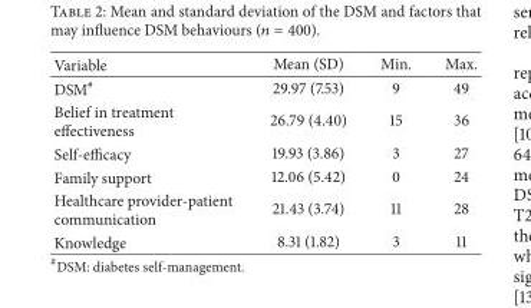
<table><thead><tr><td>Variable</td><td>Mean (SD)</td><td>Min.</td><td>Max.</td></tr></thead><tbody><tr><td>DSM<sup>#</sup></td><td>29.97 (7.53)</td><td>9</td><td>49</td></tr><tr><td>Belief in treatment effectiveness</td><td>26.79 (4.40)</td><td>15</td><td>36</td></tr><tr><td>Self-efficacy</td><td>19.93 (3.86)</td><td>3</td><td>27</td></tr><tr><td>Family support</td><td>12.06 (5.42)</td><td>0</td><td>24</td></tr><tr><td>Healthcare provider-patient communication</td><td>21.43 (3.74)</td><td>11</td><td>28</td></tr><tr><td>Knowledge</td><td>8.31 (1.82)</td><td>3</td><td>11</td></tr></tbody></table>